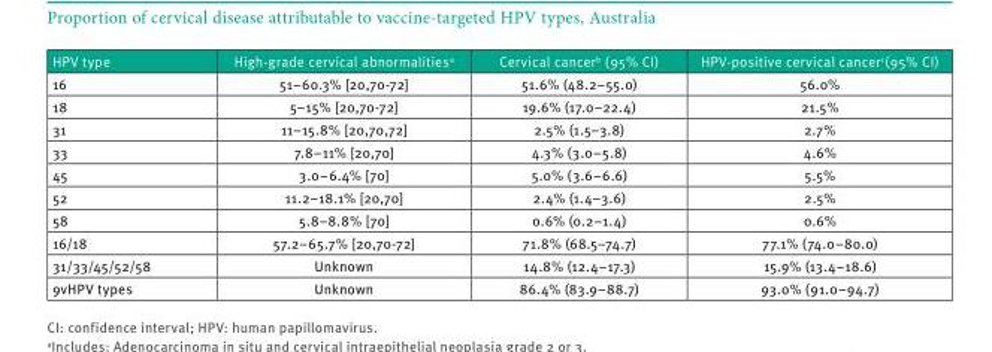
<table><thead><tr><td>HPV type</td><td>High-grade cervical abnormalities<sup>a</sup></td><td>Cervical cancer<sup>b</sup> (95% CI)</td><td>HPV-positive cervical cancer<sup>c</sup>(95% CI)</td></tr></thead><tbody><tr><td>16</td><td>51–60.3% [20,70-72]</td><td>51.6% (48.2–55.0)</td><td>56.0%</td></tr><tr><td>18</td><td>5–15% [20,70-72]</td><td>19.6% (17.0–22.4)</td><td>21.5%</td></tr><tr><td>31</td><td>11–15.8% [20,70,72]</td><td>2.5% (1.5–3.8)</td><td>2.7%</td></tr><tr><td>33</td><td>7.8–11% [20,70]</td><td>4.3% (3.0–5.8)</td><td>4.6%</td></tr><tr><td>45</td><td>3.0–6.4% [70]</td><td>5.0% (3.6–6.6)</td><td>5.5%</td></tr><tr><td>52</td><td>11.2–18.1% [20,70]</td><td>2.4% (1.4–3.6)</td><td>2.5%</td></tr><tr><td>58</td><td>5.8–8.8% [70]</td><td>0.6% (0.2–1.4)</td><td>0.6%</td></tr><tr><td>16/18</td><td>57.2–65.7% [20,70-72]</td><td>71.8% (68.5–74.7)</td><td>77.1% (74.0–80.0)</td></tr><tr><td>31/33/45/52/58</td><td>Unknown</td><td>14.8% (12.4–17.3)</td><td>15.9% (13.4–18.6)</td></tr><tr><td>9vHPV types</td><td>Unknown</td><td>86.4% (83.9–88.7)</td><td>93.0% (91.0–94.7)</td></tr></tbody></table>